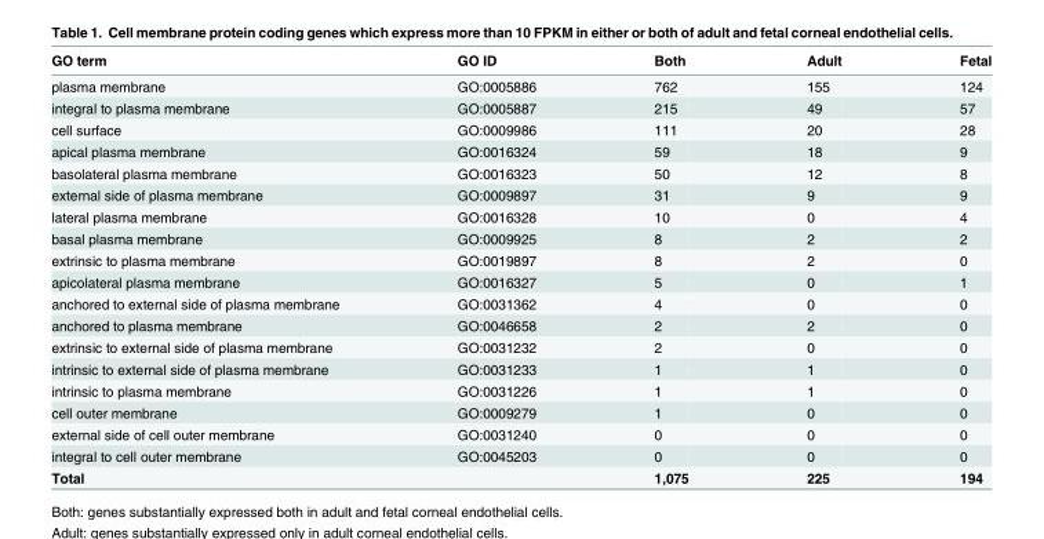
<table><thead><tr><td>GO term</td><td>GO ID</td><td>Both</td><td>Adult</td><td>Fetal</td></tr></thead><tbody><tr><td>plasma membrane</td><td>GO:0005886</td><td>762</td><td>155</td><td>124</td></tr><tr><td>integral to plasma membrane</td><td>GO:0005887</td><td>215</td><td>49</td><td>57</td></tr><tr><td>cell surface</td><td>GO:0009986</td><td>111</td><td>20</td><td>28</td></tr><tr><td>apical plasma membrane</td><td>GO:0016324</td><td>59</td><td>18</td><td>9</td></tr><tr><td>basolateral plasma membrane</td><td>GO:0016323</td><td>50</td><td>12</td><td>8</td></tr><tr><td>external side of plasma membrane</td><td>GO:0009897</td><td>31</td><td>9</td><td>9</td></tr><tr><td>lateral plasma membrane</td><td>GO:0016328</td><td>10</td><td>0</td><td>4</td></tr><tr><td>basal plasma membrane</td><td>GO:0009925</td><td>8</td><td>2</td><td>2</td></tr><tr><td>extrinsic to plasma membrane</td><td>GO:0019897</td><td>8</td><td>2</td><td>0</td></tr><tr><td>apicolateral plasma membrane</td><td>GO:0016327</td><td>5</td><td>0</td><td>1</td></tr><tr><td>anchored to external side of plasma membrane</td><td>GO:0031362</td><td>4</td><td>0</td><td>0</td></tr><tr><td>anchored to plasma membrane</td><td>GO:0046658</td><td>2</td><td>2</td><td>0</td></tr><tr><td>extrinsic to external side of plasma membrane</td><td>GO:0031232</td><td>2</td><td>0</td><td>0</td></tr><tr><td>intrinsic to external side of plasma membrane</td><td>GO:0031233</td><td>1</td><td>1</td><td>0</td></tr><tr><td>intrinsic to plasma membrane</td><td>GO:0031226</td><td>1</td><td>1</td><td>0</td></tr><tr><td>cell outer membrane</td><td>GO:0009279</td><td>1</td><td>0</td><td>0</td></tr><tr><td>external side of cell outer membrane</td><td>GO:0031240</td><td>0</td><td>0</td><td>0</td></tr><tr><td>integral to cell outer membrane</td><td>GO:0045203</td><td>0</td><td>0</td><td>0</td></tr><tr><td>Total</td><td></td><td>1,075</td><td>225</td><td>194</td></tr></tbody></table>